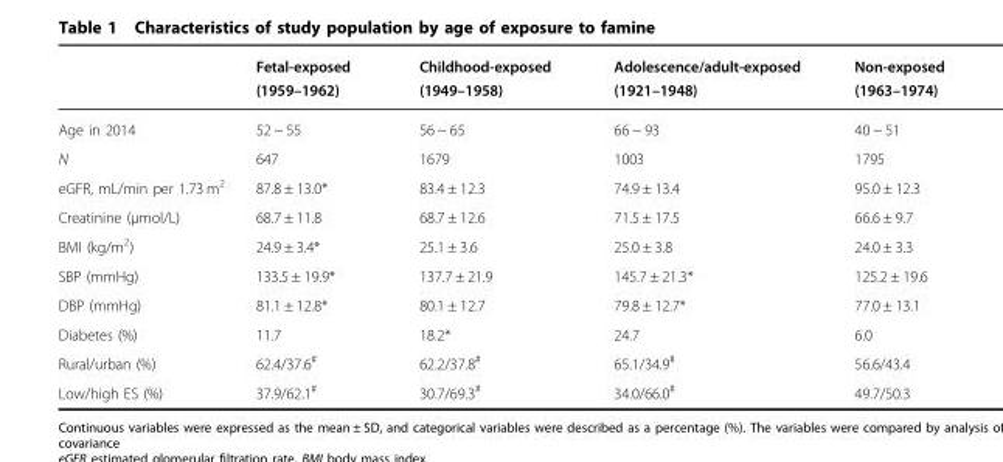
<table><thead><tr><td></td><td>Fetal-exposed (1959–1962)</td><td>Childhood-exposed (1949–1958)</td><td>Adolescence/adult-exposed (1921–1948)</td><td>Non-exposed (1963–1974)</td></tr></thead><tbody><tr><td>Age in 2014</td><td>52 ~ 55</td><td>56 ~ 65</td><td>66 ~ 93</td><td>40 ~ 51</td></tr><tr><td>N</td><td>647</td><td>1679</td><td>1003</td><td>1795</td></tr><tr><td>eGFR, mL/min per 1.73 m<sup>2</sup></td><td>87.8 ± 13.0*</td><td>83.4 ± 12.3</td><td>74.9 ± 13.4</td><td>95.0 ± 12.3</td></tr><tr><td>Creatinine (μmol/L)</td><td>68.7 ± 11.8</td><td>68.7 ± 12.6</td><td>71.5 ± 17.5</td><td>66.6 ± 9.7</td></tr><tr><td>BMI (kg/m<sup>2</sup>)</td><td>24.9 ± 3.4*</td><td>25.1 ± 3.6</td><td>25.0 ± 3.8</td><td>24.0 ± 3.3</td></tr><tr><td>SBP (mmHg)</td><td>133.5 ± 19.9*</td><td>137.7 ± 21.9</td><td>145.7 ± 21.3*</td><td>125.2 ± 19.6</td></tr><tr><td>DBP (mmHg)</td><td>81.1 ± 12.8*</td><td>80.1 ± 12.7</td><td>79.8 ± 12.7*</td><td>77.0 ± 13.1</td></tr><tr><td>Diabetes (%)</td><td>11.7</td><td>18.2*</td><td>24.7</td><td>6.0</td></tr><tr><td>Rural/urban (%)</td><td>62.4/37.6<sup>#</sup></td><td>62.2/37.8<sup>#</sup></td><td>65.1/34.9<sup>#</sup></td><td>56.6/43.4</td></tr><tr><td>Low/high ES (%)</td><td>37.9/62.1<sup>#</sup></td><td>30.7/69.3<sup>#</sup></td><td>34.0/66.0<sup>#</sup></td><td>49.7/50.3</td></tr></tbody></table>